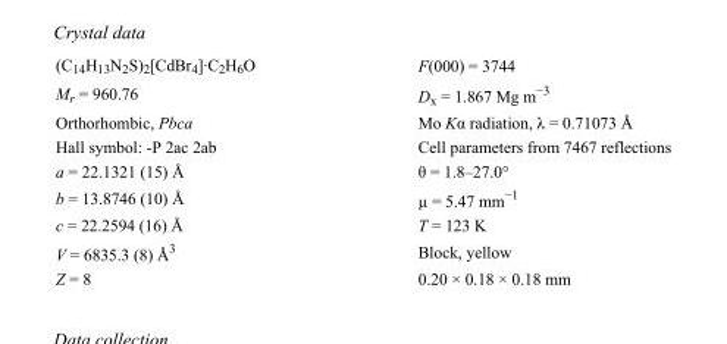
<table><tbody><tr><td>(C<sub>14</sub>H<sub>13</sub>N<sub>2</sub>S)<sub>2</sub>[CdBr<sub>4</sub>]·C<sub>2</sub>H<sub>6</sub>O</td><td>F(000) = 3744</td></tr><tr><td>M<sub>r</sub> = 960.76</td><td>D<sub>x</sub> = 1.867 Mg m<sup>−3</sup></td></tr><tr><td>Orthorhombic, Pbca</td><td>Mo Kα radiation, λ = 0.71073 Å</td></tr><tr><td>Hall symbol: -P 2ac 2ab</td><td>Cell parameters from 7467 reflections</td></tr><tr><td>a = 22.1321 (15) Å</td><td>θ = 1.8–27.0°</td></tr><tr><td>b = 13.8746 (10) Å</td><td>µ = 5.47 mm<sup>−1</sup></td></tr><tr><td>c = 22.2594 (16) Å</td><td>T = 123 K</td></tr><tr><td>V = 6835.3 (8) Å<sup>3</sup></td><td>Block, yellow</td></tr><tr><td>Z = 8</td><td>0.20 × 0.18 × 0.18 mm</td></tr></tbody></table>